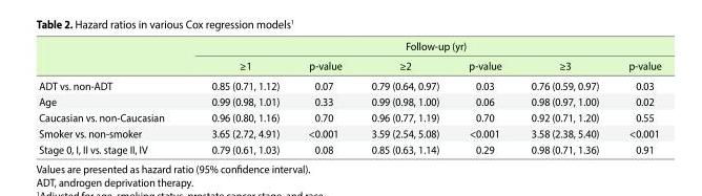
<table><thead><tr><td rowspan="2"></td><td colspan="6">Follow-up (yr)</td></tr><tr><td>≥1</td><td>p-value</td><td>≥2</td><td>p-value</td><td>≥3</td><td>p-value</td></tr></thead><tbody><tr><td>ADT vs. non-ADT</td><td>0.85 (0.71, 1.12)</td><td>0.07</td><td>0.79 (0.64, 0.97)</td><td>0.03</td><td>0.76 (0.59, 0.97)</td><td>0.03</td></tr><tr><td>Age</td><td>0.99 (0.98, 1.01)</td><td>0.33</td><td>0.99 (0.98, 1.00)</td><td>0.06</td><td>0.98 (0.97, 1.00)</td><td>0.02</td></tr><tr><td>Caucasian vs. non-Caucasian</td><td>0.96 (0.80, 1.16)</td><td>0.70</td><td>0.96 (0.77, 1.19)</td><td>0.70</td><td>0.92 (0.71, 1.20)</td><td>0.55</td></tr><tr><td>Smoker vs. non-smoker</td><td>3.65 (2.72, 4.91)</td><td>&lt;0.001</td><td>3.59 (2.54, 5.08)</td><td>&lt;0.001</td><td>3.58 (2.38, 5.40)</td><td>&lt;0.001</td></tr><tr><td>Stage 0, I, II vs. stage II, IV</td><td>0.79 (0.61, 1.03)</td><td>0.08</td><td>0.85 (0.63, 1.14)</td><td>0.29</td><td>0.98 (0.71, 1.36)</td><td>0.91</td></tr></tbody></table>